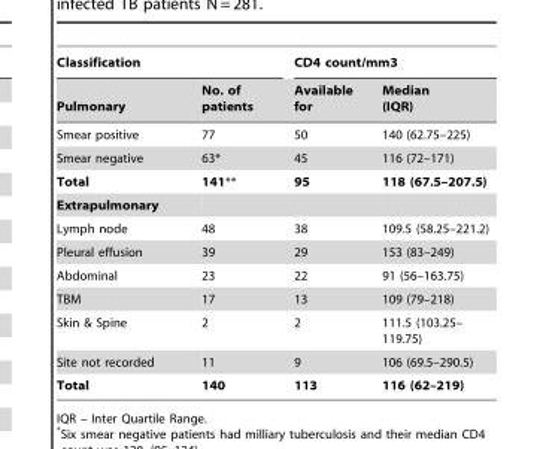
<table><thead><tr><td colspan="2">Classification</td><td colspan="2">CD4 count/mm3</td></tr><tr><td>Pulmonary</td><td>No. of patients</td><td>Available for</td><td>Median (IQR)</td></tr></thead><tbody><tr><td>Smear positive</td><td>77</td><td>50</td><td>140 (62.75–225)</td></tr><tr><td>Smear negative</td><td>63*</td><td>45</td><td>116 (72–171)</td></tr><tr><td>Total</td><td>141**</td><td>95</td><td>118 (67.5–207.5)</td></tr><tr><td colspan="4">Extrapulmonary</td></tr><tr><td>Lymph node</td><td>48</td><td>38</td><td>109.5 (58.25–221.2)</td></tr><tr><td>Pleural effusion</td><td>39</td><td>29</td><td>153 (83–249)</td></tr><tr><td>Abdominal</td><td>23</td><td>22</td><td>91 (56–163.75)</td></tr><tr><td>TBM</td><td>17</td><td>13</td><td>109 (79–218)</td></tr><tr><td>Skin &amp; Spine</td><td>2</td><td>2</td><td>111.5 (103.25– 119.75)</td></tr><tr><td>Site not recorded</td><td>11</td><td>9</td><td>106 (69.5–290.5)</td></tr><tr><td>Total</td><td>140</td><td>113</td><td>116 (62–219)</td></tr></tbody></table>